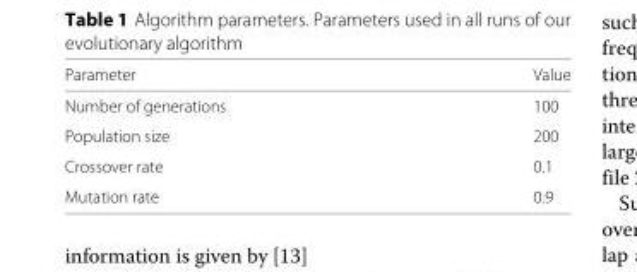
<table><thead><tr><td>Parameter</td><td>Value</td></tr></thead><tbody><tr><td>Number of generations</td><td>100</td></tr><tr><td>Population size</td><td>200</td></tr><tr><td>Crossover rate</td><td>0.1</td></tr><tr><td>Mutation rate</td><td>0.9</td></tr></tbody></table>